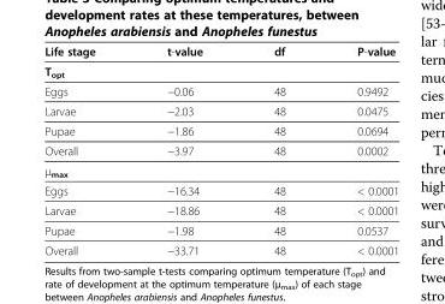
<table><thead><tr><td>Life stage</td><td>t-value</td><td>df</td><td>P-value</td></tr></thead><tbody><tr><td colspan="4">T<sub>opt</sub></td></tr><tr><td>Eggs</td><td>−0.06</td><td>48</td><td>0.9492</td></tr><tr><td>Larvae</td><td>−2.03</td><td>48</td><td>0.0475</td></tr><tr><td>Pupae</td><td>−1.86</td><td>48</td><td>0.0694</td></tr><tr><td>Overall</td><td>−3.97</td><td>48</td><td>0.0002</td></tr><tr><td colspan="4">μ<sub>max</sub></td></tr><tr><td>Eggs</td><td>−16.34</td><td>48</td><td>&lt; 0.0001</td></tr><tr><td>Larvae</td><td>−18.86</td><td>48</td><td>&lt; 0.0001</td></tr><tr><td>Pupae</td><td>−1.98</td><td>48</td><td>0.0537</td></tr><tr><td>Overall</td><td>−33.71</td><td>48</td><td>&lt; 0.0001</td></tr></tbody></table>